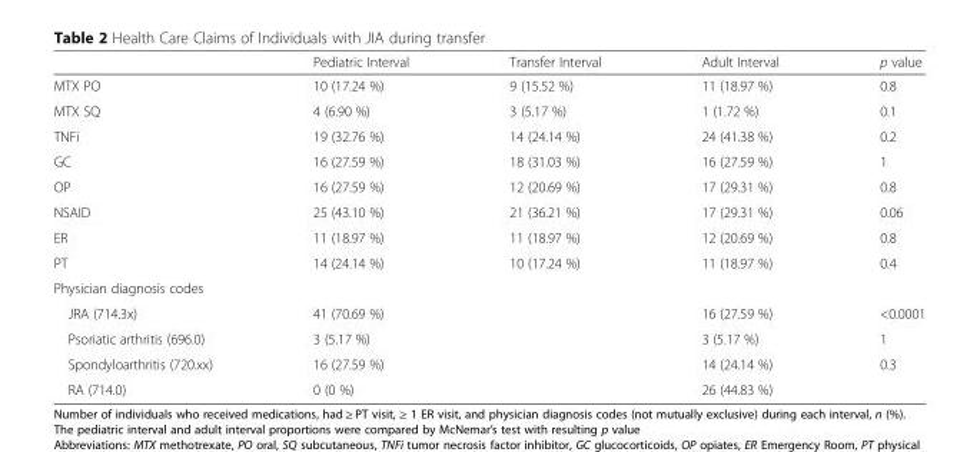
<table><thead><tr><td></td><td>Pediatric Interval</td><td>Transfer Interval</td><td>Adult Interval</td><td>p value</td></tr></thead><tbody><tr><td>MTX PO</td><td>10 (17.24 %)</td><td>9 (15.52 %)</td><td>11 (18.97 %)</td><td>0.8</td></tr><tr><td>MTX SQ</td><td>4 (6.90 %)</td><td>3 (5.17 %)</td><td>1 (1.72 %)</td><td>0.1</td></tr><tr><td>TNFi</td><td>19 (32.76 %)</td><td>14 (24.14 %)</td><td>24 (41.38 %)</td><td>0.2</td></tr><tr><td>GC</td><td>16 (27.59 %)</td><td>18 (31.03 %)</td><td>16 (27.59 %)</td><td>1</td></tr><tr><td>OP</td><td>16 (27.59 %)</td><td>12 (20.69 %)</td><td>17 (29.31 %)</td><td>0.8</td></tr><tr><td>NSAID</td><td>25 (43.10 %)</td><td>21 (36.21 %)</td><td>17 (29.31 %)</td><td>0.06</td></tr><tr><td>ER</td><td>11 (18.97 %)</td><td>11 (18.97 %)</td><td>12 (20.69 %)</td><td>0.8</td></tr><tr><td>PT</td><td>14 (24.14 %)</td><td>10 (17.24 %)</td><td>11 (18.97 %)</td><td>0.4</td></tr><tr><td colspan="5">Physician diagnosis codes</td></tr><tr><td>JRA (714.3x)</td><td>41 (70.69 %)</td><td></td><td>16 (27.59 %)</td><td>&lt;0.0001</td></tr><tr><td>Psoriatic arthritis (696.0)</td><td>3 (5.17 %)</td><td></td><td>3 (5.17 %)</td><td>1</td></tr><tr><td>Spondyloarthritis (720.xx)</td><td>16 (27.59 %)</td><td></td><td>14 (24.14 %)</td><td>0.3</td></tr><tr><td>RA (714.0)</td><td>0 (0 %)</td><td></td><td>26 (44.83 %)</td><td></td></tr></tbody></table>